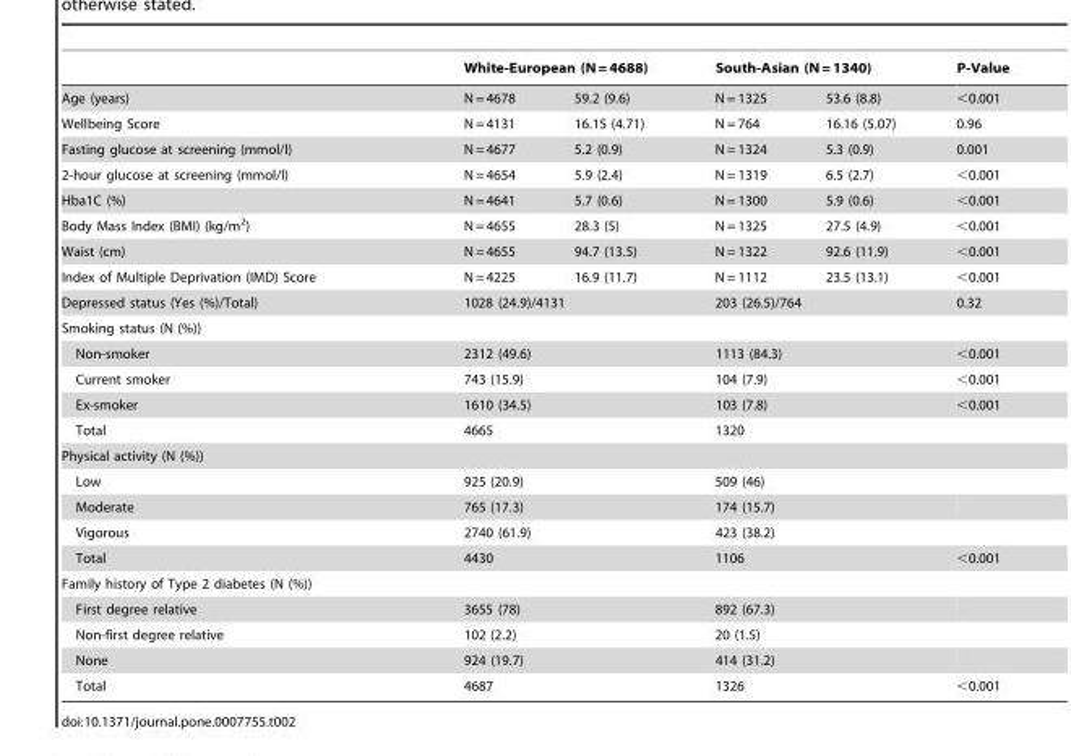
<table><thead><tr><td rowspan="2">Age (years)</td><td colspan="2">White-European (N = 4688)</td><td colspan="2">South-Asian (N = 1340)</td><td rowspan="2">P-Value &lt;0.001</td></tr><tr><td>N = 4678</td><td>59.2 (9.6)</td><td>N = 1325</td><td>53.6 (8.8)</td></tr></thead><tbody><tr><td>Wellbeing Score</td><td>N = 4131</td><td>16.15 (4.71)</td><td>N = 764</td><td>16.16 (5.07)</td><td>0.96</td></tr><tr><td>Fasting glucose at screening (mmol/l)</td><td>N = 4677</td><td>5.2 (0.9)</td><td>N = 1324</td><td>5.3 (0.9)</td><td>0.001</td></tr><tr><td>2-hour glucose at screening (mmol/l)</td><td>N = 4654</td><td>5.9 (2.4)</td><td>N = 1319</td><td>6.5 (2.7)</td><td>&lt;0.001</td></tr><tr><td>Hba1C (%)</td><td>N = 4641</td><td>5.7 (0.6)</td><td>N = 1300</td><td>5.9 (0.6)</td><td>&lt;0.001</td></tr><tr><td>Body Mass Index (BMI) (kg/m<sup>2</sup>)</td><td>N = 4655</td><td>28.3 (5)</td><td>N = 1325</td><td>27.5 (4.9)</td><td>&lt;0.001</td></tr><tr><td>Waist (cm)</td><td>N = 4655</td><td>94.7 (13.5)</td><td>N = 1322</td><td>92.6 (11.9)</td><td>&lt;0.001</td></tr><tr><td>Index of Multiple Deprivation (IMD) Score</td><td>N = 4225</td><td>16.9 (11.7)</td><td>N = 1112</td><td>23.5 (13.1)</td><td>&lt;0.001</td></tr><tr><td>Depressed status (Yes (%)/Total)</td><td colspan="2">1028 (24.9)/4131</td><td colspan="2">203 (26.5)/764</td><td>0.32</td></tr><tr><td colspan="6">Smoking status (N (%))</td></tr><tr><td>Non-smoker</td><td colspan="2">2312 (49.6)</td><td colspan="2">1113 (84.3)</td><td>&lt;0.001</td></tr><tr><td>Current smoker</td><td colspan="2">743 (15.9)</td><td colspan="2">104 (7.9)</td><td>&lt;0.001</td></tr><tr><td>Ex-smoker</td><td colspan="2">1610 (34.5)</td><td colspan="2">103 (7.8)</td><td>&lt;0.001</td></tr><tr><td>Total</td><td colspan="2">4665</td><td colspan="2">1320</td><td></td></tr><tr><td colspan="6">Physical activity (N (%))</td></tr><tr><td>Low</td><td colspan="2">925 (20.9)</td><td colspan="2">509 (46)</td><td></td></tr><tr><td>Moderate</td><td colspan="2">765 (17.3)</td><td colspan="2">174 (15.7)</td><td></td></tr><tr><td>Vigorous</td><td colspan="2">2740 (61.9)</td><td colspan="2">423 (38.2)</td><td></td></tr><tr><td>Total</td><td colspan="2">4430</td><td colspan="2">1106</td><td>&lt;0.001</td></tr><tr><td colspan="6">Family history of Type 2 diabetes (N (%))</td></tr><tr><td>First degree relative</td><td colspan="2">3655 (78)</td><td colspan="2">892 (67.3)</td><td></td></tr><tr><td>Non-first degree relative</td><td colspan="2">102 (2.2)</td><td colspan="2">20 (1.5)</td><td></td></tr><tr><td>None</td><td colspan="2">924 (19.7)</td><td colspan="2">414 (31.2)</td><td></td></tr><tr><td>Total</td><td colspan="2">4687</td><td colspan="2">1326</td><td>&lt;0.001</td></tr></tbody></table>